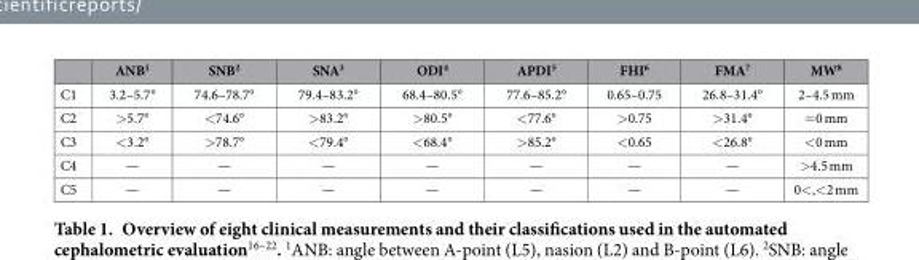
<table><thead><tr><td></td><td>ANB<sup>1</sup></td><td>SNB<sup>2</sup></td><td>SNA<sup>3</sup></td><td>ODI<sup>4</sup></td><td>APDI<sup>5</sup></td><td>FHI<sup>6</sup></td><td>FMA<sup>7</sup></td><td>MW<sup>8</sup></td></tr></thead><tbody><tr><td>C1</td><td>3.2–5.7°</td><td>74.6–78.7°</td><td>79.4–83.2°</td><td>68.4–80.5°</td><td>77.6–85.2°</td><td>0.65–0.75</td><td>26.8–31.4°</td><td>2–4.5 mm</td></tr><tr><td>C2</td><td>&gt; 5.7°</td><td>&lt; 74.6°</td><td>&gt; 83.2°</td><td>&gt; 80.5°</td><td>&lt; 77.6°</td><td>&gt; 0.75</td><td>&gt; 31.4°</td><td>= 0 mm</td></tr><tr><td>C3</td><td>&lt; 3.2°</td><td>&gt; 78.7°</td><td>&lt; 79.4°</td><td>&lt; 68.4°</td><td>&gt; 85.2°</td><td>&lt; 0.65</td><td>&lt; 26.8°</td><td>&lt; 0 mm</td></tr><tr><td>C4</td><td>—</td><td>—</td><td>—</td><td>—</td><td>—</td><td>—</td><td>—</td><td>&gt; 4.5 mm</td></tr><tr><td>C5</td><td>—</td><td>—</td><td>—</td><td>—</td><td>—</td><td>—</td><td>—</td><td>0&lt; ,&lt; 2 mm</td></tr></tbody></table>